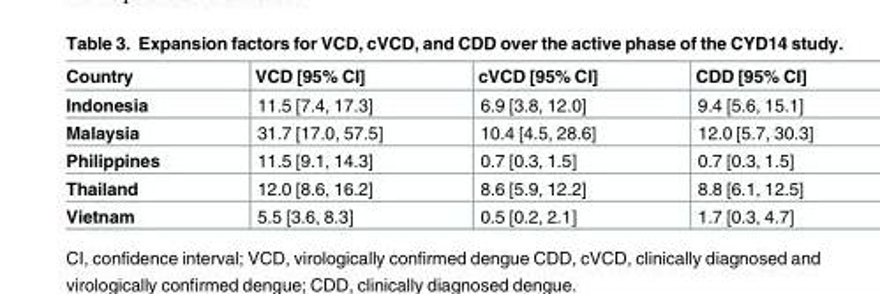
<table><thead><tr><td>Country</td><td>VCD [95% CI]</td><td>cVCD [95% CI]</td><td>CDD [95% CI]</td></tr></thead><tbody><tr><td>Indonesia</td><td>11.5 [7.4, 17.3]</td><td>6.9 [3.8, 12.0]</td><td>9.4 [5.6, 15.1]</td></tr><tr><td>Malaysia</td><td>31.7 [17.0, 57.5]</td><td>10.4 [4.5, 28.6]</td><td>12.0 [5.7, 30.3]</td></tr><tr><td>Philippines</td><td>11.5 [9.1, 14.3]</td><td>0.7 [0.3, 1.5]</td><td>0.7 [0.3, 1.5]</td></tr><tr><td>Thailand</td><td>12.0 [8.6, 16.2]</td><td>8.6 [5.9, 12.2]</td><td>8.8 [6.1, 12.5]</td></tr><tr><td>Vietnam</td><td>5.5 [3.6, 8.3]</td><td>0.5 [0.2, 2.1]</td><td>1.7 [0.3, 4.7]</td></tr></tbody></table>